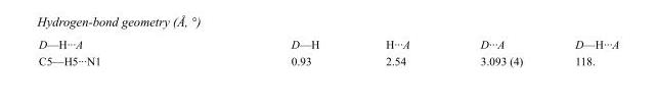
<table><tbody><tr><td>D—H···A</td><td>D—H</td><td>H···A</td><td>D···A</td><td>D—H···A</td></tr><tr><td>C5—H5···N1</td><td>0.93</td><td>2.54</td><td>3.093 (4)</td><td>118.</td></tr></tbody></table>